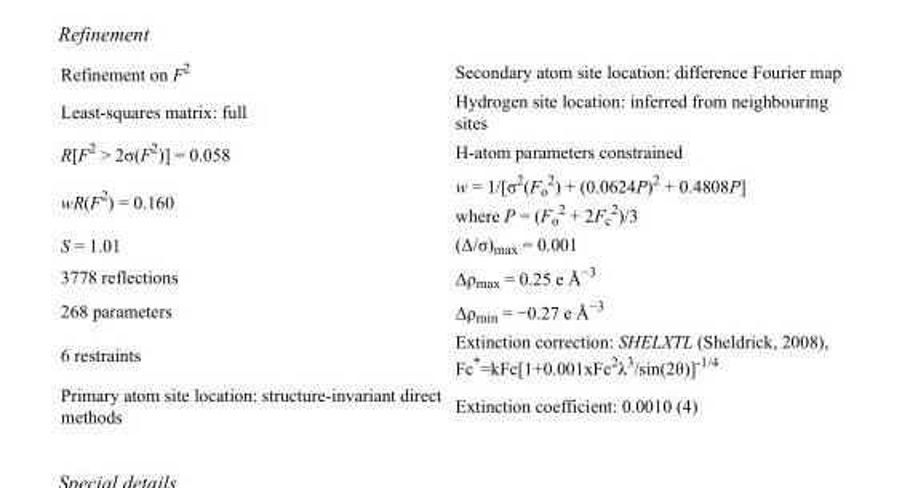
<table><tbody><tr><td>Refinement on F<sup>2</sup></td><td>Secondary atom site location: difference Fourier map</td></tr><tr><td>Least-squares matrix: full</td><td>Hydrogen site location: inferred from neighbouring sites</td></tr><tr><td>R[F<sup>2</sup> &gt; 2σ(F<sup>2</sup>)] = 0.058</td><td>H-atom parameters constrained</td></tr><tr><td>wR(F<sup>2</sup>) = 0.160</td><td>w = 1/[σ<sup>2</sup>(F<sub>o</sub> <sup>2</sup>) + (0.0624P)<sup>2</sup> + 0.4808P] where P = (F<sub>o</sub> <sup>2</sup> + 2F<sub>c</sub> <sup>2</sup>)/3</td></tr><tr><td>S = 1.01</td><td>(Δ/σ)<sub>max</sub> = 0.001</td></tr><tr><td>3778 reflections</td><td>Δρ<sub>max</sub> = 0.25 e Å<sup>−3</sup></td></tr><tr><td>268 parameters</td><td>Δρ<sub>min</sub> = −0.27 e Å<sup>−3</sup></td></tr><tr><td>6 restraints</td><td>Extinction correction: SHELXTL (Sheldrick, 2008), Fc*=kFc[1+0.001xFc<sup>2</sup>λ<sup>3</sup>/sin(2θ)]<sup>-1/4</sup></td></tr><tr><td>Primary atom site location: structure-invariant direct methods</td><td>Extinction coefficient: 0.0010 (4)</td></tr></tbody></table>